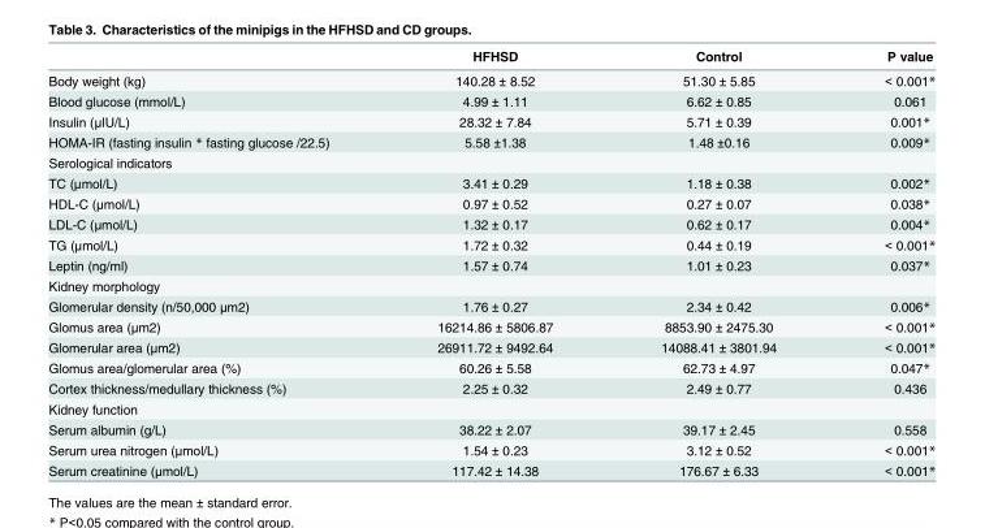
<table><thead><tr><td></td><td>HFHSD</td><td>Control</td><td>P value</td></tr></thead><tbody><tr><td>Body weight (kg)</td><td>140.28 ± 8.52</td><td>51.30 ± 5.85</td><td>&lt; 0.001*</td></tr><tr><td>Blood glucose (mmol/L)</td><td>4.99 ± 1.11</td><td>6.62 ± 0.85</td><td>0.061</td></tr><tr><td>Insulin (μIU/L)</td><td>28.32 ± 7.84</td><td>5.71 ± 0.39</td><td>0.001*</td></tr><tr><td>HOMA-IR (fasting insulin * fasting glucose /22.5)</td><td>5.58 ±1.38</td><td>1.48 ±0.16</td><td>0.009*</td></tr><tr><td colspan="4">Serological indicators</td></tr><tr><td>TC (μmol/L)</td><td>3.41 ± 0.29</td><td>1.18 ± 0.38</td><td>0.002*</td></tr><tr><td>HDL-C (μmol/L)</td><td>0.97 ± 0.52</td><td>0.27 ± 0.07</td><td>0.038*</td></tr><tr><td>LDL-C (μmol/L)</td><td>1.32 ± 0.17</td><td>0.62 ± 0.17</td><td>0.004*</td></tr><tr><td>TG (μmol/L)</td><td>1.72 ± 0.32</td><td>0.44 ± 0.19</td><td>&lt; 0.001*</td></tr><tr><td>Leptin (ng/ml)</td><td>1.57 ± 0.74</td><td>1.01 ± 0.23</td><td>0.037*</td></tr><tr><td colspan="4">Kidney morphology</td></tr><tr><td>Glomerular density (n/50,000 μm2)</td><td>1.76 ± 0.27</td><td>2.34 ± 0.42</td><td>0.006*</td></tr><tr><td>Glomus area (μm2)</td><td>16214.86 ± 5806.87</td><td>8853.90 ± 2475.30</td><td>&lt; 0.001*</td></tr><tr><td>Glomerular area (μm2)</td><td>26911.72 ± 9492.64</td><td>14088.41 ± 3801.94</td><td>&lt; 0.001*</td></tr><tr><td>Glomus area/glomerular area (%)</td><td>60.26 ± 5.58</td><td>62.73 ± 4.97</td><td>0.047*</td></tr><tr><td>Cortex thickness/medullary thickness (%)</td><td>2.25 ± 0.32</td><td>2.49 ± 0.77</td><td>0.436</td></tr><tr><td colspan="4">Kidney function</td></tr><tr><td>Serum albumin (g/L)</td><td>38.22 ± 2.07</td><td>39.17 ± 2.45</td><td>0.558</td></tr><tr><td>Serum urea nitrogen (μmol/L)</td><td>1.54 ± 0.23</td><td>3.12 ± 0.52</td><td>&lt; 0.001*</td></tr><tr><td>Serum creatinine (μmol/L)</td><td>117.42 ± 14.38</td><td>176.67 ± 6.33</td><td>&lt; 0.001*</td></tr></tbody></table>